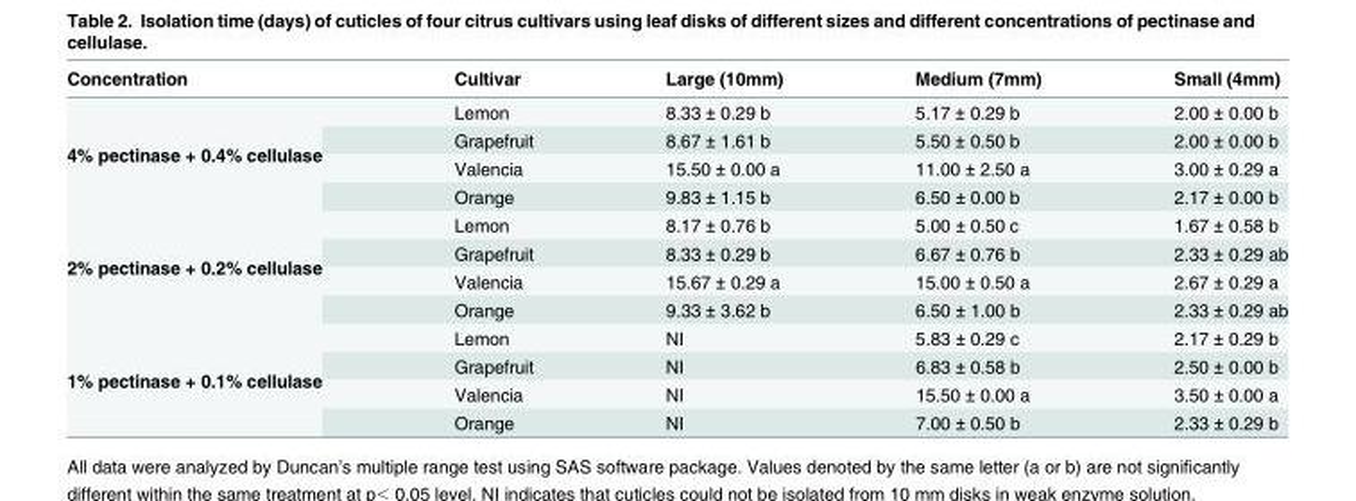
<table><thead><tr><td>Concentration</td><td>Cultivar</td><td>Large (10mm)</td><td>Medium (7mm)</td><td>Small (4mm)</td></tr></thead><tbody><tr><td rowspan="4">4% pectinase + 0.4% cellulase</td><td>Lemon</td><td>8.33 ± 0.29 b</td><td>5.17 ± 0.29 b</td><td>2.00 ± 0.00 b</td></tr><tr><td>Grapefruit</td><td>8.67 ± 1.61 b</td><td>5.50 ± 0.50 b</td><td>2.00 ± 0.00 b</td></tr><tr><td>Valencia</td><td>15.50 ± 0.00 a</td><td>11.00 ± 2.50 a</td><td>3.00 ± 0.29 a</td></tr><tr><td>Orange</td><td>9.83 ± 1.15 b</td><td>6.50 ± 0.00 b</td><td>2.17 ± 0.00 b</td></tr><tr><td rowspan="4">2% pectinase + 0.2% cellulase</td><td>Lemon</td><td>8.17 ± 0.76 b</td><td>5.00 ± 0.50 c</td><td>1.67 ± 0.58 b</td></tr><tr><td>Grapefruit</td><td>8.33 ± 0.29 b</td><td>6.67 ± 0.76 b</td><td>2.33 ± 0.29 ab</td></tr><tr><td>Valencia</td><td>15.67 ± 0.29 a</td><td>15.00 ± 0.50 a</td><td>2.67 ± 0.29 a</td></tr><tr><td>Orange</td><td>9.33 ± 3.62 b</td><td>6.50 ± 1.00 b</td><td>2.33 ± 0.29 ab</td></tr><tr><td rowspan="4">1% pectinase + 0.1% cellulase</td><td>Lemon</td><td>NI</td><td>5.83 ± 0.29 c</td><td>2.17 ± 0.29 b</td></tr><tr><td>Grapefruit</td><td>NI</td><td>6.83 ± 0.58 b</td><td>2.50 ± 0.00 b</td></tr><tr><td>Valencia</td><td>NI</td><td>15.50 ± 0.00 a</td><td>3.50 ± 0.00 a</td></tr><tr><td>Orange</td><td>NI</td><td>7.00 ± 0.50 b</td><td>2.33 ± 0.29 b</td></tr></tbody></table>